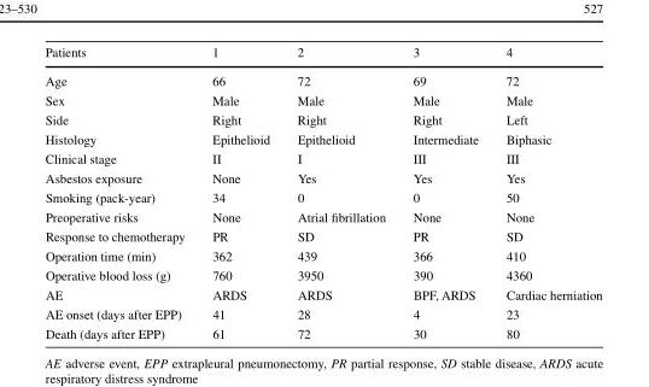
<table><thead><tr><td>Patients</td><td>1</td><td>2</td><td>3</td><td>4</td></tr></thead><tbody><tr><td>Age</td><td>66</td><td>72</td><td>69</td><td>72</td></tr><tr><td>Sex</td><td>Male</td><td>Male</td><td>Male</td><td>Male</td></tr><tr><td>Side</td><td>Right</td><td>Right</td><td>Right</td><td>Left</td></tr><tr><td>Histology</td><td>Epithelioid</td><td>Epithelioid</td><td>Intermediate</td><td>Biphasic</td></tr><tr><td>Clinical stage</td><td>II</td><td>I</td><td>III</td><td>III</td></tr><tr><td>Asbestos exposure</td><td>None</td><td>Yes</td><td>Yes</td><td>Yes</td></tr><tr><td>Smoking (pack-year)</td><td>34</td><td>0</td><td>0</td><td>50</td></tr><tr><td>Preoperative risks</td><td>None</td><td>Atrial fibrillation</td><td>None</td><td>None</td></tr><tr><td>Response to chemotherapy</td><td>PR</td><td>SD</td><td>PR</td><td>SD</td></tr><tr><td>Operation time (min)</td><td>362</td><td>439</td><td>366</td><td>410</td></tr><tr><td>Operative blood loss (g)</td><td>760</td><td>3950</td><td>390</td><td>4360</td></tr><tr><td>AE</td><td>ARDS</td><td>ARDS</td><td>BPF, ARDS</td><td>Cardiac herniation</td></tr><tr><td>AE onset (days after EPP)</td><td>41</td><td>28</td><td>4</td><td>23</td></tr><tr><td>Death (days after EPP)</td><td>61</td><td>72</td><td>30</td><td>80</td></tr></tbody></table>